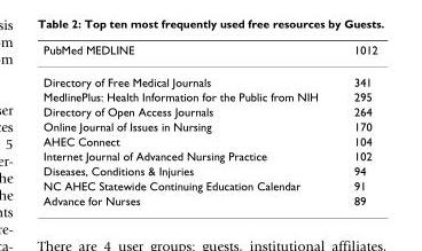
<table><thead><tr><td>PubMed MEDLINE</td><td>1012</td></tr></thead><tbody><tr><td>Directory of Free Medical Journals</td><td>341</td></tr><tr><td>MedlinePlus: Health Information for the Public from NIH</td><td>295</td></tr><tr><td>Directory of Open Access Journals</td><td>264</td></tr><tr><td>Online Journal of Issues in Nursing</td><td>170</td></tr><tr><td>AHEC Connect</td><td>104</td></tr><tr><td>Internet Journal of Advanced Nursing Practice</td><td>102</td></tr><tr><td>Diseases, Conditions &amp; Injuries</td><td>94</td></tr><tr><td>NC AHEC Statewide Continuing Education Calendar</td><td>91</td></tr><tr><td>Advance for Nurses</td><td>89</td></tr></tbody></table>